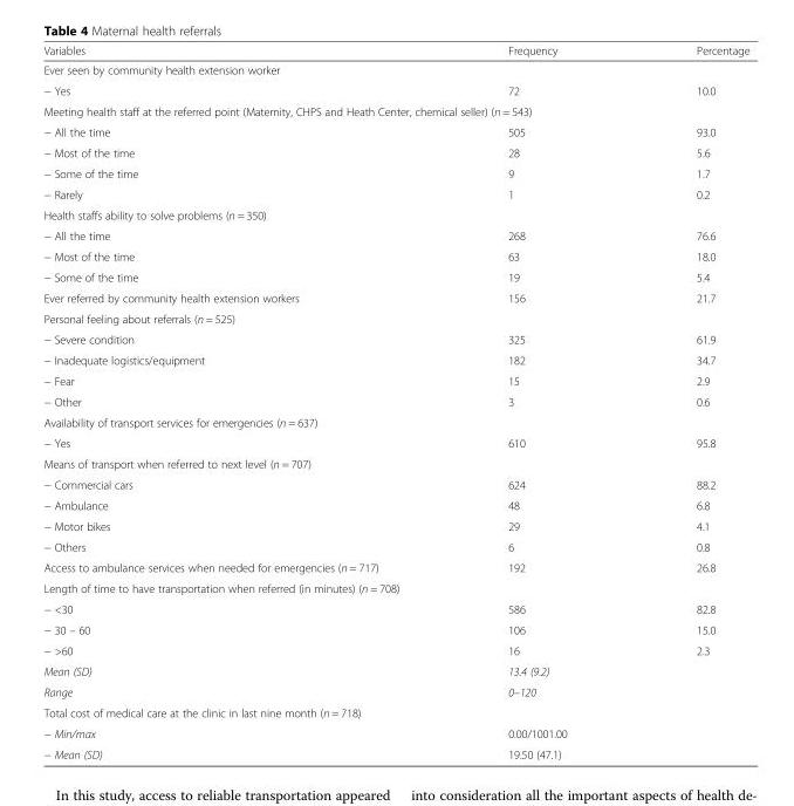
<table><thead><tr><td>Variables</td><td>Frequency</td><td>Percentage</td></tr></thead><tbody><tr><td colspan="3">Ever seen by community health extension worker</td></tr><tr><td>− Yes</td><td>72</td><td>10.0</td></tr><tr><td colspan="3">Meeting health staff at the referred point (Maternity, CHPS and Heath Center, chemical seller) (n = 543)</td></tr><tr><td>− All the time</td><td>505</td><td>93.0</td></tr><tr><td>− Most of the time</td><td>28</td><td>5.6</td></tr><tr><td>− Some of the time</td><td>9</td><td>1.7</td></tr><tr><td>− Rarely</td><td>1</td><td>0.2</td></tr><tr><td colspan="3">Health staffs ability to solve problems (n = 350)</td></tr><tr><td>− All the time</td><td>268</td><td>76.6</td></tr><tr><td>− Most of the time</td><td>63</td><td>18.0</td></tr><tr><td>− Some of the time</td><td>19</td><td>5.4</td></tr><tr><td>Ever referred by community health extension workers</td><td>156</td><td>21.7</td></tr><tr><td colspan="3">Personal feeling about referrals (n = 525)</td></tr><tr><td>− Severe condition</td><td>325</td><td>61.9</td></tr><tr><td>− Inadequate logistics/equipment</td><td>182</td><td>34.7</td></tr><tr><td>− Fear</td><td>15</td><td>2.9</td></tr><tr><td>− Other</td><td>3</td><td>0.6</td></tr><tr><td colspan="3">Availability of transport services for emergencies (n = 637)</td></tr><tr><td>− Yes</td><td>610</td><td>95.8</td></tr><tr><td colspan="3">Means of transport when referred to next level (n = 707)</td></tr><tr><td>− Commercial cars</td><td>624</td><td>88.2</td></tr><tr><td>− Ambulance</td><td>48</td><td>6.8</td></tr><tr><td>− Motor bikes</td><td>29</td><td>4.1</td></tr><tr><td>− Others</td><td>6</td><td>0.8</td></tr><tr><td>Access to ambulance services when needed for emergencies (n = 717)</td><td>192</td><td>26.8</td></tr><tr><td colspan="3">Length of time to have transportation when referred (in minutes) (n = 708)</td></tr><tr><td>− &lt;30</td><td>586</td><td>82.8</td></tr><tr><td>− 30 – 60</td><td>106</td><td>15.0</td></tr><tr><td>− &gt;60</td><td>16</td><td>2.3</td></tr><tr><td>Mean (SD)</td><td>13.4 (9.2)</td><td></td></tr><tr><td>Range</td><td>0–120</td><td></td></tr><tr><td colspan="3">Total cost of medical care at the clinic in last nine month (n = 718)</td></tr><tr><td>− Min/max</td><td>0.00/1001.00</td><td></td></tr><tr><td>− Mean (SD)</td><td>19.50 (47.1)</td><td></td></tr></tbody></table>